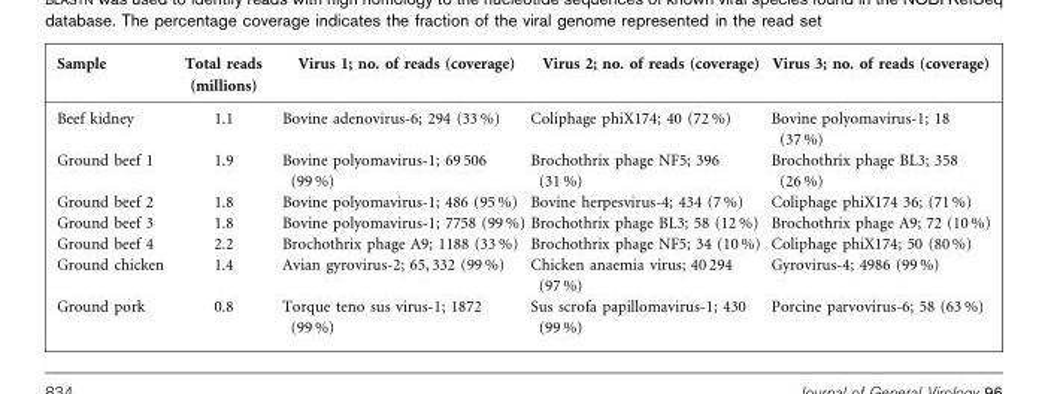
<table><thead><tr><td>Sample</td><td>Total reads (millions)</td><td>Virus 1; no. of reads (coverage)</td><td>Virus 2; no. of reads (coverage)</td><td>Virus 3; no. of reads (coverage)</td></tr></thead><tbody><tr><td>Beef kidney</td><td>1.1</td><td>Bovine adenovirus-6; 294 (33 %)</td><td>Coliphage phiX174; 40 (72 %)</td><td>Bovine polyomavirus-1; 18 (37 %)</td></tr><tr><td>Ground beef 1</td><td>1.9</td><td>Bovine polyomavirus-1; 69 506 (99 %)</td><td>Brochothrix phage NF5; 396 (31 %)</td><td>Brochothrix phage BL3; 358 (26 %)</td></tr><tr><td>Ground beef 2</td><td>1.8</td><td>Bovine polyomavirus-1; 486 (95 %)</td><td>Bovine herpesvirus-4; 434 (7 %)</td><td>Coliphage phiX174 36; (71 %)</td></tr><tr><td>Ground beef 3</td><td>1.8</td><td>Bovine polyomavirus-1; 7758 (99 %)</td><td>Brochothrix phage BL3; 58 (12 %)</td><td>Brochothrix phage A9; 72 (10 %)</td></tr><tr><td>Ground beef 4</td><td>2.2</td><td>Brochothrix phage A9; 1188 (33 %)</td><td>Brochothrix phage NF5; 34 (10 %)</td><td>Coliphage phiX174; 50 (80 %)</td></tr><tr><td>Ground chicken</td><td>1.4</td><td>Avian gyrovirus-2; 65, 332 (99 %)</td><td>Chicken anaemia virus; 40 294 (97 %)</td><td>Gyrovirus-4; 4986 (99 %)</td></tr><tr><td>Ground pork</td><td>0.8</td><td>Torque teno sus virus-1; 1872 (99 %)</td><td>Sus scrofa papillomavirus-1; 430 (99 %)</td><td>Porcine parvovirus-6; 58 (63 %)</td></tr></tbody></table>